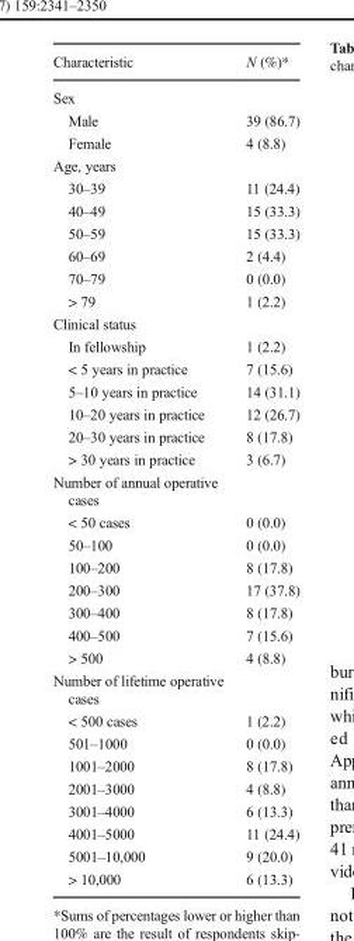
<table><thead><tr><td>Characteristic</td><td>N (%)*</td></tr></thead><tbody><tr><td colspan="2">Sex</td></tr><tr><td>Male</td><td>39 (86.7)</td></tr><tr><td>Female</td><td>4 (8.8)</td></tr><tr><td colspan="2">Age, years</td></tr><tr><td>30–39</td><td>11 (24.4)</td></tr><tr><td>40–49</td><td>15 (33.3)</td></tr><tr><td>50–59</td><td>15 (33.3)</td></tr><tr><td>60–69</td><td>2 (4.4)</td></tr><tr><td>70–79</td><td>0 (0.0)</td></tr><tr><td>&gt; 79</td><td>1 (2.2)</td></tr><tr><td colspan="2">Clinical status</td></tr><tr><td>In fellowship</td><td>1 (2.2)</td></tr><tr><td>&lt; 5 years in practice</td><td>7 (15.6)</td></tr><tr><td>5–10 years in practice</td><td>14 (31.1)</td></tr><tr><td>10–20 years in practice</td><td>12 (26.7)</td></tr><tr><td>20–30 years in practice</td><td>8 (17.8)</td></tr><tr><td>&gt; 30 years in practice</td><td>3 (6.7)</td></tr><tr><td colspan="2">Number of annual operative cases</td></tr><tr><td>&lt; 50 cases</td><td>0 (0.0)</td></tr><tr><td>50–100</td><td>0 (0.0)</td></tr><tr><td>100–200</td><td>8 (17.8)</td></tr><tr><td>200–300</td><td>17 (37.8)</td></tr><tr><td>300–400</td><td>8 (17.8)</td></tr><tr><td>400–500</td><td>7 (15.6)</td></tr><tr><td>&gt; 500</td><td>4 (8.8)</td></tr><tr><td colspan="2">Number of lifetime operative cases</td></tr><tr><td>&lt; 500 cases</td><td>1 (2.2)</td></tr><tr><td>501–1000</td><td>0 (0.0)</td></tr><tr><td>1001–2000</td><td>8 (17.8)</td></tr><tr><td>2001–3000</td><td>4 (8.8)</td></tr><tr><td>3001–4000</td><td>6 (13.3)</td></tr><tr><td>4001–5000</td><td>11 (24.4)</td></tr><tr><td>5001–10,000</td><td>9 (20.0)</td></tr><tr><td>&gt; 10,000</td><td>6 (13.3)</td></tr></tbody></table>